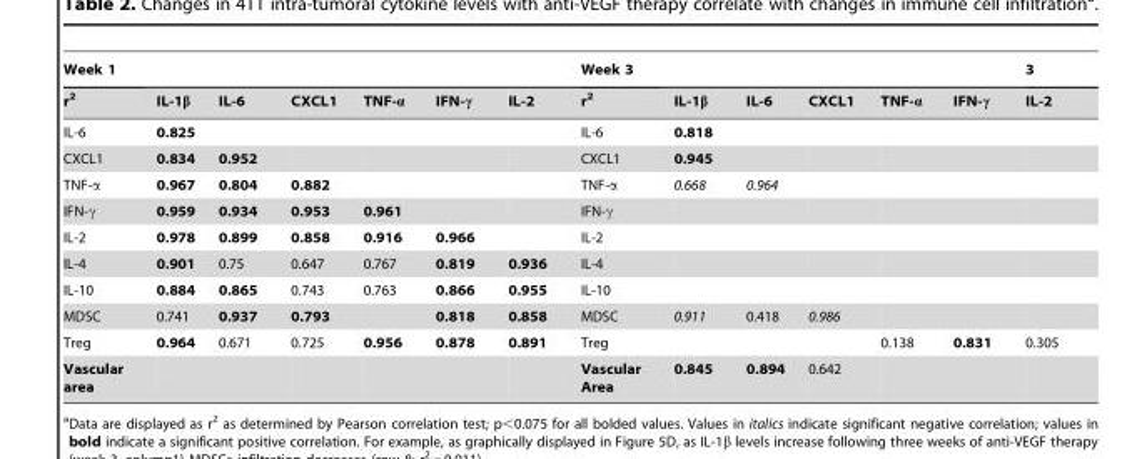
<table><thead><tr><td rowspan="2">Week 1 r<sup>2</sup></td><td rowspan="2">IL-1β</td><td rowspan="2">IL-6</td><td rowspan="2">CXCL1</td><td rowspan="2">TNF-α</td><td rowspan="2">IFN-γ</td><td rowspan="2">IL-2</td><td rowspan="2">Week 3 r<sup>2</sup></td><td rowspan="2">IL-1β</td><td rowspan="2">IL-6</td><td rowspan="2">CXCL1</td><td rowspan="2">TNF-α</td><td rowspan="2">IFN-γ</td><td rowspan="2">3 IL-2</td></tr><tr></tr></thead><tbody><tr><td>IL-6</td><td>0.825</td><td></td><td></td><td></td><td></td><td></td><td>IL-6</td><td>0.818</td><td></td><td></td><td></td><td></td><td></td></tr><tr><td>CXCL1</td><td>0.834</td><td>0.952</td><td></td><td></td><td></td><td></td><td>CXCL1</td><td>0.945</td><td></td><td></td><td></td><td></td><td></td></tr><tr><td>TNF-α</td><td>0.967</td><td>0.804</td><td>0.882</td><td></td><td></td><td></td><td>TNF-α</td><td>0.668</td><td>0.964</td><td></td><td></td><td></td><td></td></tr><tr><td>IFN-γ</td><td>0.959</td><td>0.934</td><td>0.953</td><td>0.961</td><td></td><td></td><td>IFN-γ</td><td></td><td></td><td></td><td></td><td></td><td></td></tr><tr><td>IL-2</td><td>0.978</td><td>0.899</td><td>0.858</td><td>0.916</td><td>0.966</td><td></td><td>IL-2</td><td></td><td></td><td></td><td></td><td></td><td></td></tr><tr><td>IL-4</td><td>0.901</td><td>0.75</td><td>0.647</td><td>0.767</td><td>0.819</td><td>0.936</td><td>IL-4</td><td></td><td></td><td></td><td></td><td></td><td></td></tr><tr><td>IL-10</td><td>0.884</td><td>0.865</td><td>0.743</td><td>0.763</td><td>0.866</td><td>0.955</td><td>IL-10</td><td></td><td></td><td></td><td></td><td></td><td></td></tr><tr><td>MDSC</td><td>0.741</td><td>0.937</td><td>0.793</td><td></td><td>0.818</td><td>0.858</td><td>MDSC</td><td>0.911</td><td>0.418</td><td>0.986</td><td></td><td></td><td></td></tr><tr><td>Treg</td><td>0.964</td><td>0.671</td><td>0.725</td><td>0.956</td><td>0.878</td><td>0.891</td><td>Treg</td><td></td><td></td><td></td><td>0.138</td><td>0.831</td><td>0.305</td></tr><tr><td>Vascular area</td><td></td><td></td><td></td><td></td><td></td><td></td><td>Vascular Area</td><td>0.845</td><td>0.894</td><td>0.642</td><td></td><td></td><td></td></tr></tbody></table>